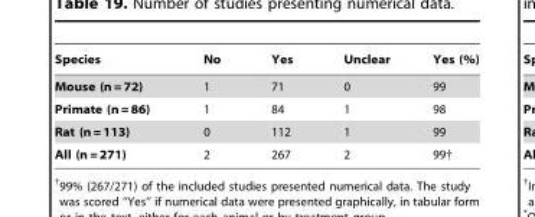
<table><thead><tr><td>Species</td><td>No</td><td>Yes</td><td>Unclear</td><td>Yes (%)</td></tr></thead><tbody><tr><td>Mouse (n = 72)</td><td>1</td><td>71</td><td>0</td><td>99</td></tr><tr><td>Primate (n = 86)</td><td>1</td><td>84</td><td>1</td><td>98</td></tr><tr><td>Rat (n = 113)</td><td>0</td><td>112</td><td>1</td><td>99</td></tr><tr><td>All (n = 271)</td><td>2</td><td>267</td><td>2</td><td>99†</td></tr></tbody></table>